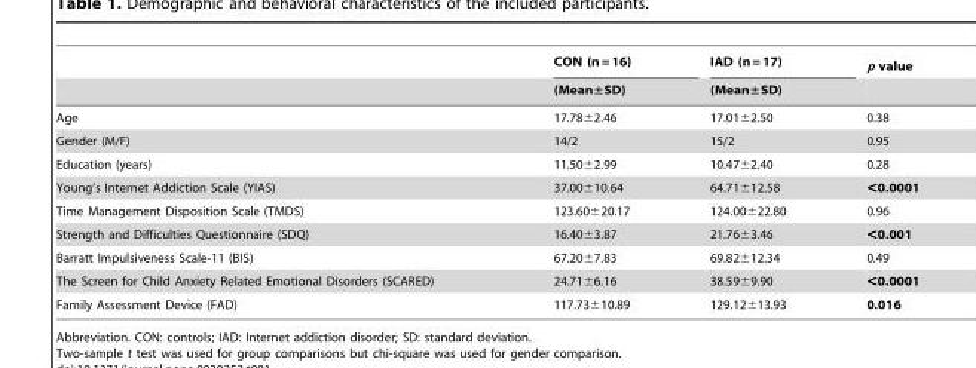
<table><thead><tr><td rowspan="2"></td><td rowspan="2">CON (n = 16) (Mean±SD)</td><td rowspan="2">IAD (n = 17) (Mean±SD)</td><td rowspan="2">p value</td></tr><tr></tr></thead><tbody><tr><td>Age</td><td>17.78±2.46</td><td>17.01±2.50</td><td>0.38</td></tr><tr><td>Gender (M/F)</td><td>14/2</td><td>15/2</td><td>0.95</td></tr><tr><td>Education (years)</td><td>11.50±2.99</td><td>10.47±2.40</td><td>0.28</td></tr><tr><td>Young’s Internet Addiction Scale (YIAS)</td><td>37.00±10.64</td><td>64.71±12.58</td><td>&lt;0.0001</td></tr><tr><td>Time Management Disposition Scale (TMDS)</td><td>123.60±20.17</td><td>124.00±22.80</td><td>0.96</td></tr><tr><td>Strength and Difficulties Questionnaire (SDQ)</td><td>16.40±3.87</td><td>21.76±3.46</td><td>&lt;0.001</td></tr><tr><td>Barratt Impulsiveness Scale-11 (BIS)</td><td>67.20±7.83</td><td>69.82±12.34</td><td>0.49</td></tr><tr><td>The Screen for Child Anxiety Related Emotional Disorders (SCARED)</td><td>24.71±6.16</td><td>38.59±9.90</td><td>&lt;0.0001</td></tr><tr><td>Family Assessment Device (FAD)</td><td>117.73±10.89</td><td>129.12±13.93</td><td>0.016</td></tr></tbody></table>